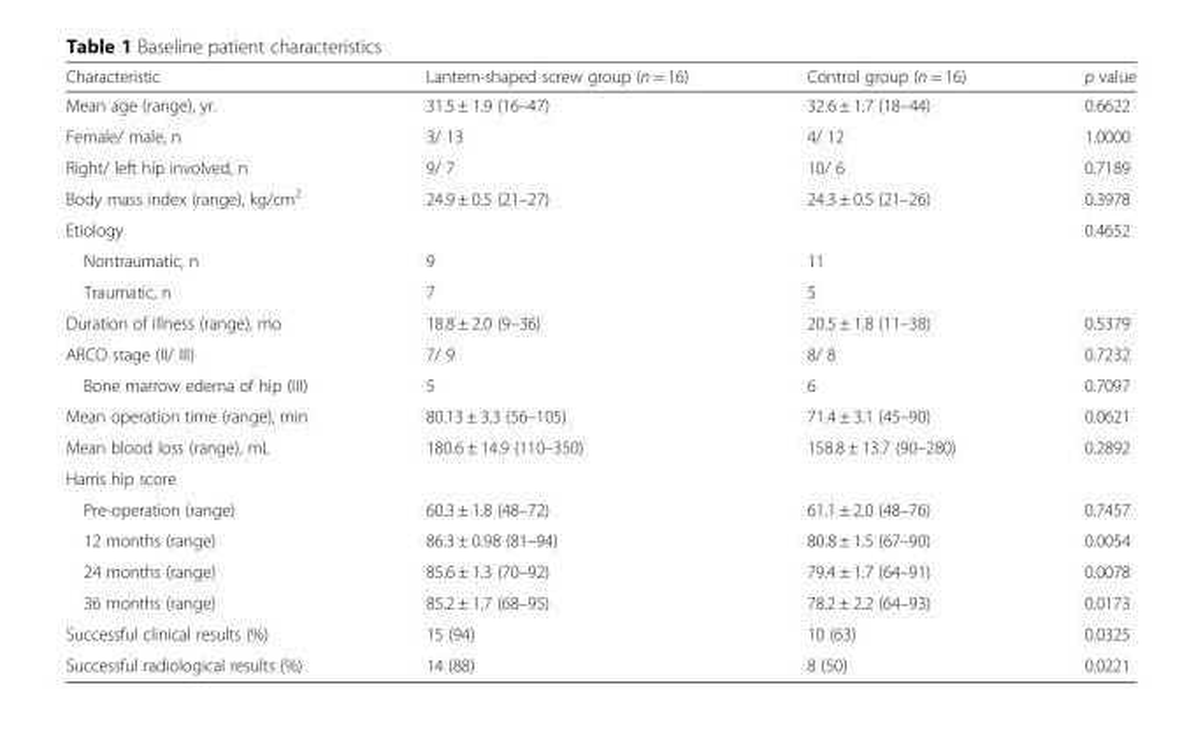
<table><thead><tr><td>Characteristic</td><td>Lantern-shaped screw group (n = 16)</td><td>Control group (n = 16)</td><td>p value</td></tr></thead><tbody><tr><td>Mean age (range), yr.</td><td>31.5 ± 1.9 (16–47)</td><td>32.6 ± 1.7 (18–44)</td><td>0.6622</td></tr><tr><td>Female/ male, n</td><td>3/ 13</td><td>4/ 12</td><td>1.0000</td></tr><tr><td>Right/ left hip involved, n</td><td>9/ 7</td><td>10/ 6</td><td>0.7189</td></tr><tr><td>Body mass index (range), kg/cm<sup>2</sup></td><td>24.9 ± 0.5 (21–27)</td><td>24.3 ± 0.5 (21–26)</td><td>0.3978</td></tr><tr><td>Etiology</td><td></td><td></td><td>0.4652</td></tr><tr><td>Nontraumatic, n</td><td>9</td><td>11</td><td></td></tr><tr><td>Traumatic, n</td><td>7</td><td>5</td><td></td></tr><tr><td>Duration of illness (range), mo</td><td>18.8 ± 2.0 (9–36)</td><td>20.5 ± 1.8 (11–38)</td><td>0.5379</td></tr><tr><td>ARCO stage (II/ III)</td><td>7/ 9</td><td>8/ 8</td><td>0.7232</td></tr><tr><td>Bone marrow edema of hip (III)</td><td>5</td><td>6</td><td>0.7097</td></tr><tr><td>Mean operation time (range), min</td><td>80.13 ± 3.3 (56–105)</td><td>71.4 ± 3.1 (45–90)</td><td>0.0621</td></tr><tr><td>Mean blood loss (range), mL</td><td>180.6 ± 14.9 (110–350)</td><td>158.8 ± 13.7 (90–280)</td><td>0.2892</td></tr><tr><td colspan="4">Harris hip score</td></tr><tr><td>Pre-operation (range)</td><td>60.3 ± 1.8 (48–72)</td><td>61.1 ± 2.0 (48–76)</td><td>0.7457</td></tr><tr><td>12 months (range)</td><td>86.3 ± 0.98 (81–94)</td><td>80.8 ± 1.5 (67–90)</td><td>0.0054</td></tr><tr><td>24 months (range)</td><td>85.6 ± 1.3 (70–92)</td><td>79.4 ± 1.7 (64–91)</td><td>0.0078</td></tr><tr><td>36 months (range)</td><td>85.2 ± 1.7 (68–95)</td><td>78.2 ± 2.2 (64–93)</td><td>0.0173</td></tr><tr><td>Successful clinical results (%)</td><td>15 (94)</td><td>10 (63)</td><td>0.0325</td></tr><tr><td>Successful radiological results (%)</td><td>14 (88)</td><td>8 (50)</td><td>0.0221</td></tr></tbody></table>